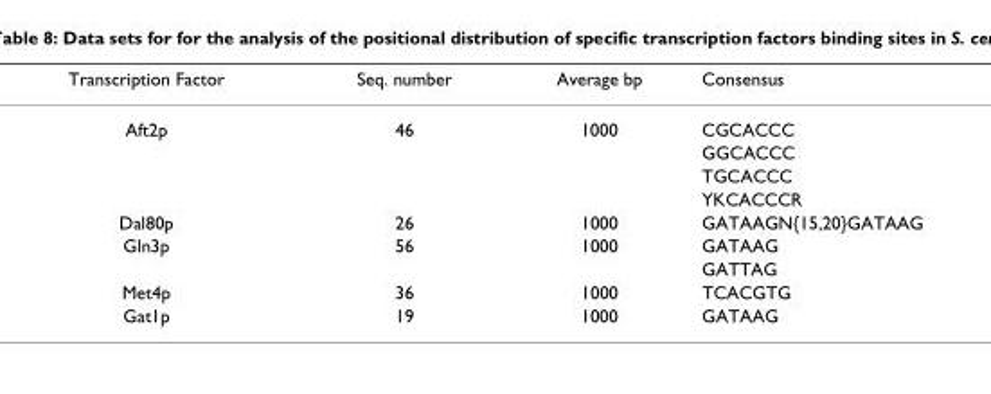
<table><thead><tr><td>Transcription Factor</td><td>Seq. number</td><td>Average bp</td><td>Consensus</td></tr></thead><tbody><tr><td rowspan="4">Aft2p</td><td>46</td><td>1000</td><td>CGCACCC</td></tr><tr><td></td><td></td><td>GGCACCC</td></tr><tr><td></td><td></td><td>TGCACCC</td></tr><tr><td></td><td></td><td>YKCACCCR</td></tr><tr><td>Dal80p</td><td>26</td><td>1000</td><td>GATAAGN{15,20}GATAAG</td></tr><tr><td rowspan="2">Gln3p</td><td>56</td><td>1000</td><td>GATAAG</td></tr><tr><td></td><td></td><td>GATTAG</td></tr><tr><td>Met4p</td><td>36</td><td>1000</td><td>TCACGTG</td></tr><tr><td>Gat1p</td><td>19</td><td>1000</td><td>GATAAG</td></tr></tbody></table>